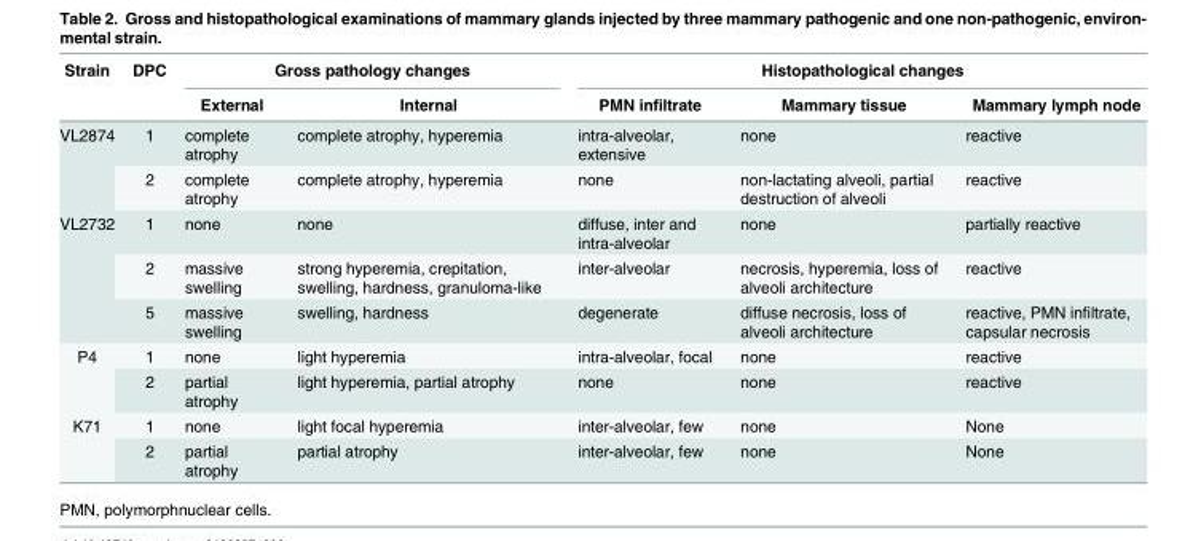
<table><thead><tr><td rowspan="2">Strain</td><td rowspan="2">DPC</td><td colspan="2">Gross pathology changes</td><td colspan="3">Histopathological changes</td></tr><tr><td>External</td><td>Internal</td><td>PMN infiltrate</td><td>Mammary tissue</td><td>Mammary lymph node</td></tr></thead><tbody><tr><td rowspan="2">VL2874</td><td>1</td><td>complete atrophy</td><td>complete atrophy, hyperemia</td><td>intra-alveolar, extensive</td><td>none</td><td>reactive</td></tr><tr><td>2</td><td>complete atrophy</td><td>complete atrophy, hyperemia</td><td>none</td><td>non-lactating alveoli, partial destruction of alveoli</td><td>reactive</td></tr><tr><td rowspan="3">VL2732</td><td>1</td><td>none</td><td>none</td><td>diffuse, inter and intra-alveolar</td><td>none</td><td>partially reactive</td></tr><tr><td>2</td><td>massive swelling</td><td>strong hyperemia, crepitation, swelling, hardness, granuloma-like</td><td>inter-alveolar</td><td>necrosis, hyperemia, loss of alveoli architecture</td><td>reactive</td></tr><tr><td>5</td><td>massive swelling</td><td>swelling, hardness</td><td>degenerate</td><td>diffuse necrosis, loss of alveoli architecture</td><td>reactive, PMN infiltrate, capsular necrosis</td></tr><tr><td rowspan="2">P4</td><td>1</td><td>none</td><td>light hyperemia</td><td>intra-alveolar, focal</td><td>none</td><td>reactive</td></tr><tr><td>2</td><td>partial atrophy</td><td>light hyperemia, partial atrophy</td><td>none</td><td>none</td><td>reactive</td></tr><tr><td rowspan="2">K71</td><td>1</td><td>none</td><td>light focal hyperemia</td><td>inter-alveolar, few</td><td>none</td><td>None</td></tr><tr><td>2</td><td>partial atrophy</td><td>partial atrophy</td><td>inter-alveolar, few</td><td>none</td><td>None</td></tr></tbody></table>